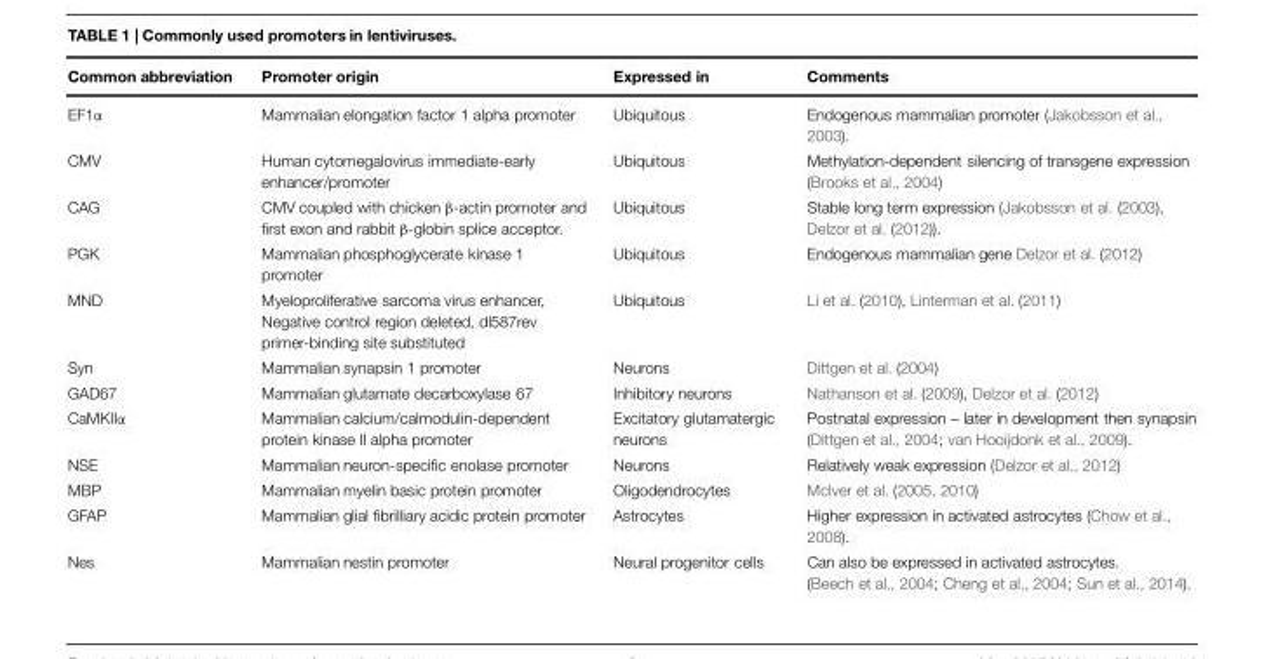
<table><thead><tr><td>Common abbreviation</td><td>Promoter origin</td><td>Expressed in</td><td>Comments</td></tr></thead><tbody><tr><td>EF1α</td><td>Mammalian elongation factor 1 alpha promoter</td><td>Ubiquitous</td><td>Endogenous mammalian promoter (Jakobsson et al., 2003).</td></tr><tr><td>CMV</td><td>Human cytomegalovirus immediate-early enhancer/promoter</td><td>Ubiquitous</td><td>Methylation-dependent silencing of transgene expression (Brooks et al., 2004)</td></tr><tr><td>CAG</td><td>CMV coupled with chicken β-actin promoter and first exon and rabbit β-globin splice acceptor.</td><td>Ubiquitous</td><td>Stable long term expression (Jakobsson et al. (2003), Delzor et al. (2012)).</td></tr><tr><td>PGK</td><td>Mammalian phosphoglycerate kinase 1 promoter</td><td>Ubiquitous</td><td>Endogenous mammalian gene Delzor et al. (2012)</td></tr><tr><td>MND</td><td>Myeloproliferative sarcoma virus enhancer, Negative control region deleted, dl587rev primer-binding site substituted</td><td>Ubiquitous</td><td>Li et al. (2010), Linterman et al. (2011)</td></tr><tr><td>Syn</td><td>Mammalian synapsin 1 promoter</td><td>Neurons</td><td>Dittgen et al. (2004)</td></tr><tr><td>GAD67</td><td>Mammalian glutamate decarboxylase 67</td><td>Inhibitory neurons</td><td>Nathanson et al. (2009), Delzor et al. (2012)</td></tr><tr><td>CaMKIIα</td><td>Mammalian calcium/calmodulin-dependent protein kinase II alpha promoter</td><td>Excitatory glutamatergic neurons</td><td>Postnatal expression – later in development then synapsin (Dittgen et al., 2004; van Hooijdonk et al., 2009).</td></tr><tr><td>NSE</td><td>Mammalian neuron-specific enolase promoter</td><td>Neurons</td><td>Relatively weak expression (Delzor et al., 2012)</td></tr><tr><td>MBP</td><td>Mammalian myelin basic protein promoter</td><td>Oligodendrocytes</td><td>McIver et al. (2005, 2010)</td></tr><tr><td>GFAP</td><td>Mammalian glial fibrilliary acidic protein promoter</td><td>Astrocytes</td><td>Higher expression in activated astrocytes (Chow et al., 2008).</td></tr><tr><td>Nes</td><td>Mammalian nestin promoter</td><td>Neural progenitor cells</td><td>Can also be expressed in activated astrocytes. (Beech et al., 2004; Cheng et al., 2004; Sun et al., 2014).</td></tr></tbody></table>